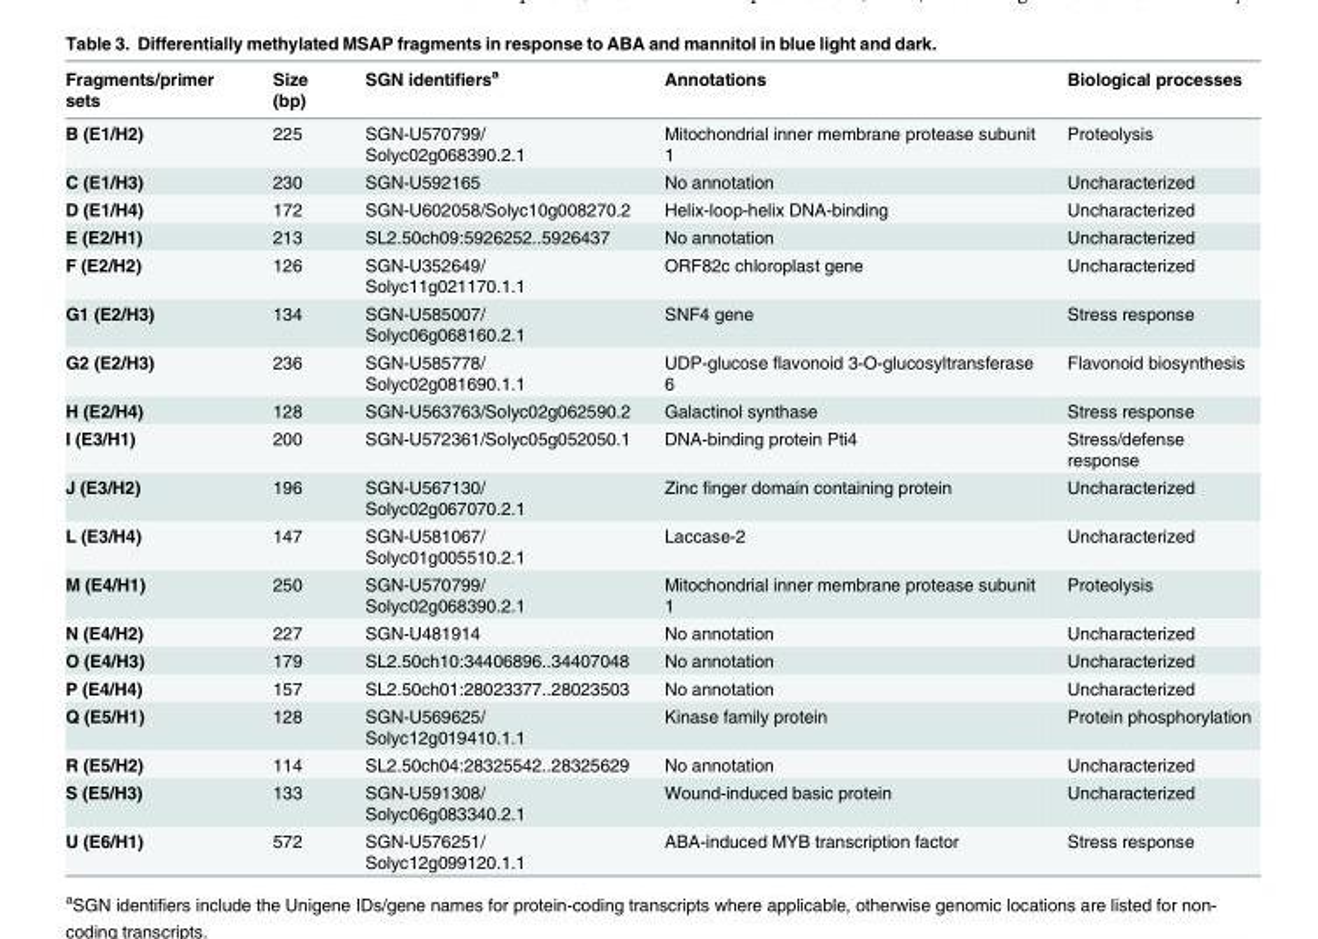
<table><thead><tr><td>Fragments/primer sets</td><td>Size (bp)</td><td>SGN identifiers<sup>a</sup></td><td>Annotations</td><td>Biological processes</td></tr></thead><tbody><tr><td>B (E1/H2)</td><td>225</td><td>SGN-U570799/ Solyc02g068390.2.1</td><td>Mitochondrial inner membrane protease subunit 1</td><td>Proteolysis</td></tr><tr><td>C (E1/H3)</td><td>230</td><td>SGN-U592165</td><td>No annotation</td><td>Uncharacterized</td></tr><tr><td>D (E1/H4)</td><td>172</td><td>SGN-U602058/Solyc10g008270.2</td><td>Helix-loop-helix DNA-binding</td><td>Uncharacterized</td></tr><tr><td>E (E2/H1)</td><td>213</td><td>SL2.50ch09:5926252..5926437</td><td>No annotation</td><td>Uncharacterized</td></tr><tr><td>F (E2/H2)</td><td>126</td><td>SGN-U352649/ Solyc11g021170.1.1</td><td>ORF82c chloroplast gene</td><td>Uncharacterized</td></tr><tr><td>G1 (E2/H3)</td><td>134</td><td>SGN-U585007/ Solyc06g068160.2.1</td><td>SNF4 gene</td><td>Stress response</td></tr><tr><td>G2 (E2/H3)</td><td>236</td><td>SGN-U585778/ Solyc02g081690.1.1</td><td>UDP-glucose flavonoid 3-O-glucosyltransferase 6</td><td>Flavonoid biosynthesis</td></tr><tr><td>H (E2/H4)</td><td>128</td><td>SGN-U563763/Solyc02g062590.2</td><td>Galactinol synthase</td><td>Stress response</td></tr><tr><td>I (E3/H1)</td><td>200</td><td>SGN-U572361/Solyc05g052050.1</td><td>DNA-binding protein Pti4</td><td>Stress/defense response</td></tr><tr><td>J (E3/H2)</td><td>196</td><td>SGN-U567130/ Solyc02g067070.2.1</td><td>Zinc finger domain containing protein</td><td>Uncharacterized</td></tr><tr><td>L (E3/H4)</td><td>147</td><td>SGN-U581067/ Solyc01g005510.2.1</td><td>Laccase-2</td><td>Uncharacterized</td></tr><tr><td>M (E4/H1)</td><td>250</td><td>SGN-U570799/ Solyc02g068390.2.1</td><td>Mitochondrial inner membrane protease subunit 1</td><td>Proteolysis</td></tr><tr><td>N (E4/H2)</td><td>227</td><td>SGN-U481914</td><td>No annotation</td><td>Uncharacterized</td></tr><tr><td>O (E4/H3)</td><td>179</td><td>SL2.50ch10:34406896..34407048</td><td>No annotation</td><td>Uncharacterized</td></tr><tr><td>P (E4/H4)</td><td>157</td><td>SL2.50ch01:28023377..28023503</td><td>No annotation</td><td>Uncharacterized</td></tr><tr><td>Q (E5/H1)</td><td>128</td><td>SGN-U569625/ Solyc12g019410.1.1</td><td>Kinase family protein</td><td>Protein phosphorylation</td></tr><tr><td>R (E5/H2)</td><td>114</td><td>SL2.50ch04:28325542..28325629</td><td>No annotation</td><td>Uncharacterized</td></tr><tr><td>S (E5/H3)</td><td>133</td><td>SGN-U591308/ Solyc06g083340.2.1</td><td>Wound-induced basic protein</td><td>Uncharacterized</td></tr><tr><td>U (E6/H1)</td><td>572</td><td>SGN-U576251/ Solyc12g099120.1.1</td><td>ABA-induced MYB transcription factor</td><td>Stress response</td></tr></tbody></table>